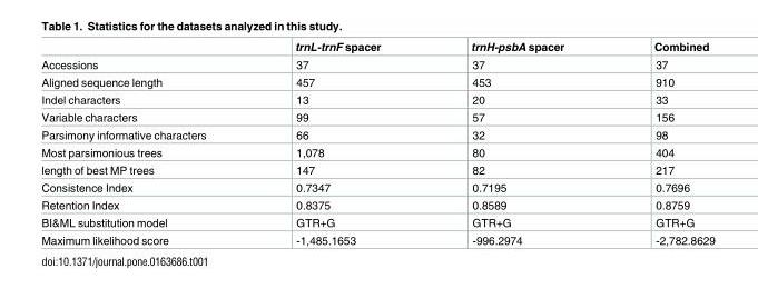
<table><thead><tr><td></td><td>trnL-trnF spacer</td><td>trnH-psbA spacer</td><td>Combined</td></tr></thead><tbody><tr><td>Accessions</td><td>37</td><td>37</td><td>37</td></tr><tr><td>Aligned sequence length</td><td>457</td><td>453</td><td>910</td></tr><tr><td>Indel characters</td><td>13</td><td>20</td><td>33</td></tr><tr><td>Variable characters</td><td>99</td><td>57</td><td>156</td></tr><tr><td>Parsimony informative characters</td><td>66</td><td>32</td><td>98</td></tr><tr><td>Most parsimonious trees</td><td>1,078</td><td>80</td><td>404</td></tr><tr><td>length of best MP trees</td><td>147</td><td>82</td><td>217</td></tr><tr><td>Consistence Index</td><td>0.7347</td><td>0.7195</td><td>0.7696</td></tr><tr><td>Retention Index</td><td>0.8375</td><td>0.8589</td><td>0.8759</td></tr><tr><td>BI&amp;ML substitution model</td><td>GTR+G</td><td>GTR+G</td><td>GTR+G</td></tr><tr><td>Maximum likelihood score</td><td>-1,485.1653</td><td>-996.2974</td><td>-2,782.8629</td></tr></tbody></table>